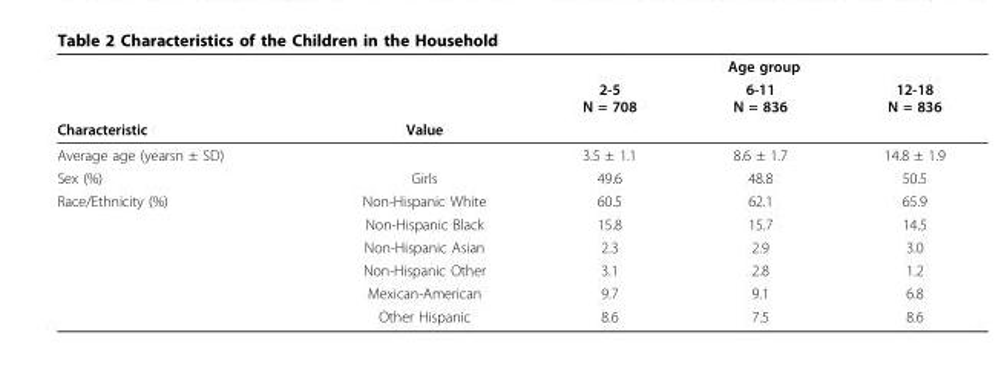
<table><thead><tr><td rowspan="3">Characteristic</td><td rowspan="3">Value</td><td colspan="3">Age group</td></tr><tr><td rowspan="2">2-5 N = 708</td><td rowspan="2">6-11 N = 836</td><td rowspan="2">12-18 N = 836</td></tr><tr></tr></thead><tbody><tr><td>Average age (yearsn ± SD)</td><td></td><td>3.5 ± 1.1</td><td>8.6 ± 1.7</td><td>14.8 ± 1.9</td></tr><tr><td>Sex (%)</td><td>Girls</td><td>49.6</td><td>48.8</td><td>50.5</td></tr><tr><td rowspan="6">Race/Ethnicity (%)</td><td>Non-Hispanic White</td><td>60.5</td><td>62.1</td><td>65.9</td></tr><tr><td>Non-Hispanic Black</td><td>15.8</td><td>15.7</td><td>14.5</td></tr><tr><td>Non-Hispanic Asian</td><td>2.3</td><td>2.9</td><td>3.0</td></tr><tr><td>Non-Hispanic Other</td><td>3.1</td><td>2.8</td><td>1.2</td></tr><tr><td>Mexican-American</td><td>9.7</td><td>9.1</td><td>6.8</td></tr><tr><td>Other Hispanic</td><td>8.6</td><td>7.5</td><td>8.6</td></tr></tbody></table>